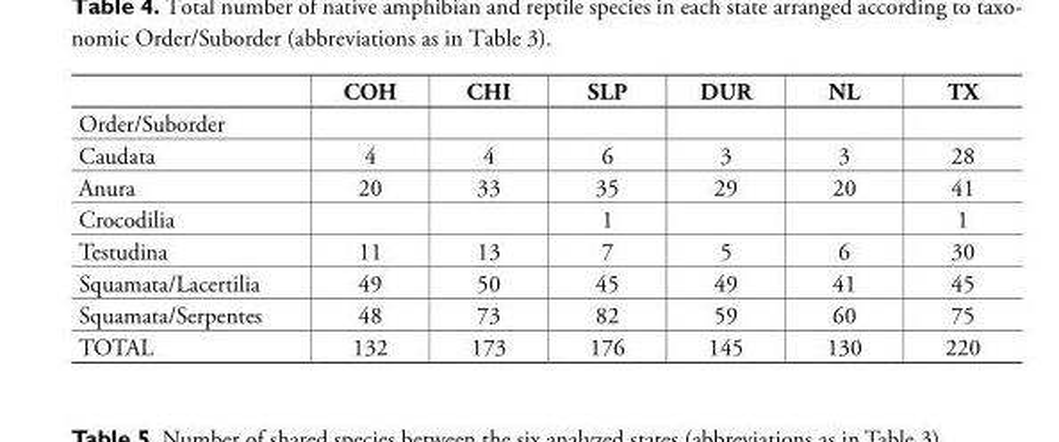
<table><thead><tr><td></td><td>COH</td><td>CHI</td><td>SLP</td><td>DUR</td><td>NL</td><td>TX</td></tr></thead><tbody><tr><td colspan="7">Order/Suborder</td></tr><tr><td>Caudata</td><td>4</td><td>4</td><td>6</td><td>3</td><td>3</td><td>28</td></tr><tr><td>Anura</td><td>20</td><td>33</td><td>35</td><td>29</td><td>20</td><td>41</td></tr><tr><td>Crocodilia</td><td></td><td></td><td>1</td><td></td><td></td><td>1</td></tr><tr><td>Testudina</td><td>11</td><td>13</td><td>7</td><td>5</td><td>6</td><td>30</td></tr><tr><td>Squamata/Lacertilia</td><td>49</td><td>50</td><td>45</td><td>49</td><td>41</td><td>45</td></tr><tr><td>Squamata/Serpentes</td><td>48</td><td>73</td><td>82</td><td>59</td><td>60</td><td>75</td></tr><tr><td>TOTAL</td><td>132</td><td>173</td><td>176</td><td>145</td><td>130</td><td>220</td></tr></tbody></table>